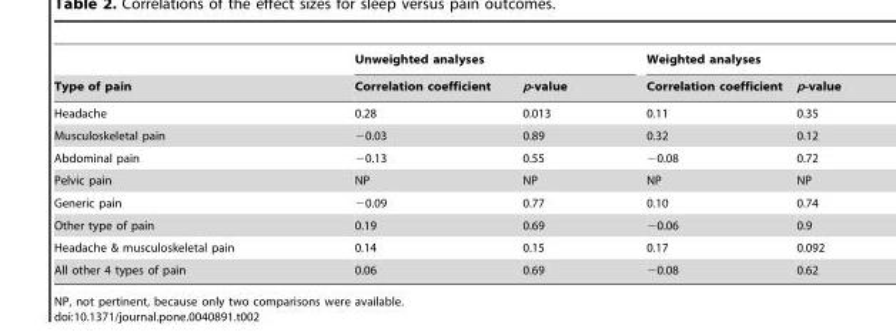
<table><thead><tr><td rowspan="2">Type of pain</td><td colspan="2">Unweighted analyses</td><td colspan="2">Weighted analyses</td></tr><tr><td>Correlation coefficient</td><td>p-value</td><td>Correlation coefficient</td><td>p-value</td></tr></thead><tbody><tr><td>Headache</td><td>0.28</td><td>0.013</td><td>0.11</td><td>0.35</td></tr><tr><td>Musculoskeletal pain</td><td>−0.03</td><td>0.89</td><td>0.32</td><td>0.12</td></tr><tr><td>Abdominal pain</td><td>−0.13</td><td>0.55</td><td>−0.08</td><td>0.72</td></tr><tr><td>Pelvic pain</td><td>NP</td><td>NP</td><td>NP</td><td>NP</td></tr><tr><td>Generic pain</td><td>−0.09</td><td>0.77</td><td>0.10</td><td>0.74</td></tr><tr><td>Other type of pain</td><td>0.19</td><td>0.69</td><td>−0.06</td><td>0.9</td></tr><tr><td>Headache &amp; musculoskeletal pain</td><td>0.14</td><td>0.15</td><td>0.17</td><td>0.092</td></tr><tr><td>All other 4 types of pain</td><td>0.06</td><td>0.69</td><td>−0.08</td><td>0.62</td></tr></tbody></table>